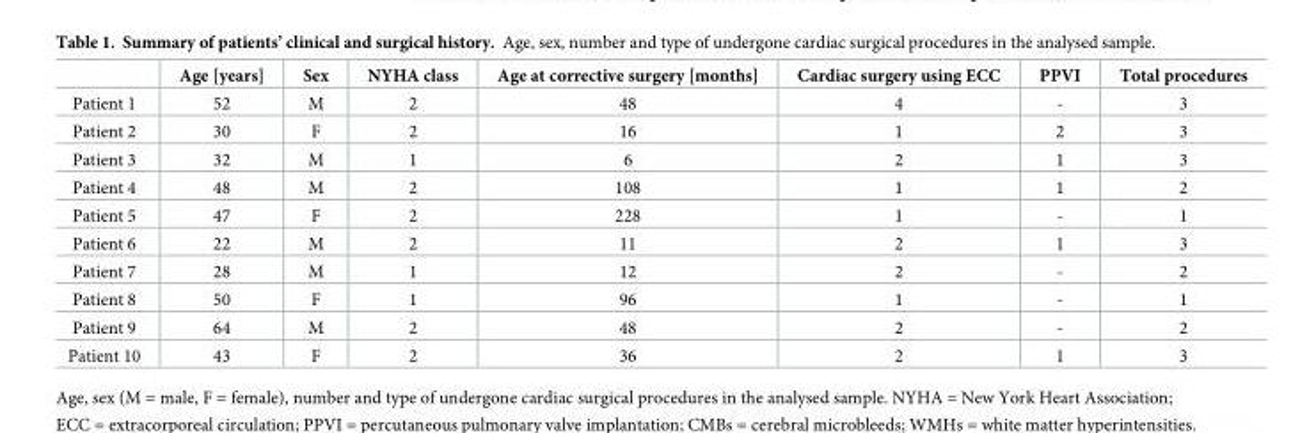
<table><thead><tr><td></td><td>Age [years]</td><td>Sex</td><td>NYHA class</td><td>Age at corrective surgery [months]</td><td>Cardiac surgery using ECC</td><td>PPVI</td><td>Total procedures</td></tr></thead><tbody><tr><td>Patient 1</td><td>52</td><td>M</td><td>2</td><td>48</td><td>4</td><td>-</td><td>3</td></tr><tr><td>Patient 2</td><td>30</td><td>F</td><td>2</td><td>16</td><td>1</td><td>2</td><td>3</td></tr><tr><td>Patient 3</td><td>32</td><td>M</td><td>1</td><td>6</td><td>2</td><td>1</td><td>3</td></tr><tr><td>Patient 4</td><td>48</td><td>M</td><td>2</td><td>108</td><td>1</td><td>1</td><td>2</td></tr><tr><td>Patient 5</td><td>47</td><td>F</td><td>2</td><td>228</td><td>1</td><td>-</td><td>1</td></tr><tr><td>Patient 6</td><td>22</td><td>M</td><td>2</td><td>11</td><td>2</td><td>1</td><td>3</td></tr><tr><td>Patient 7</td><td>28</td><td>M</td><td>1</td><td>12</td><td>2</td><td>-</td><td>2</td></tr><tr><td>Patient 8</td><td>50</td><td>F</td><td>1</td><td>96</td><td>1</td><td>-</td><td>1</td></tr><tr><td>Patient 9</td><td>64</td><td>M</td><td>2</td><td>48</td><td>2</td><td>-</td><td>2</td></tr><tr><td>Patient 10</td><td>43</td><td>F</td><td>2</td><td>36</td><td>2</td><td>1</td><td>3</td></tr></tbody></table>